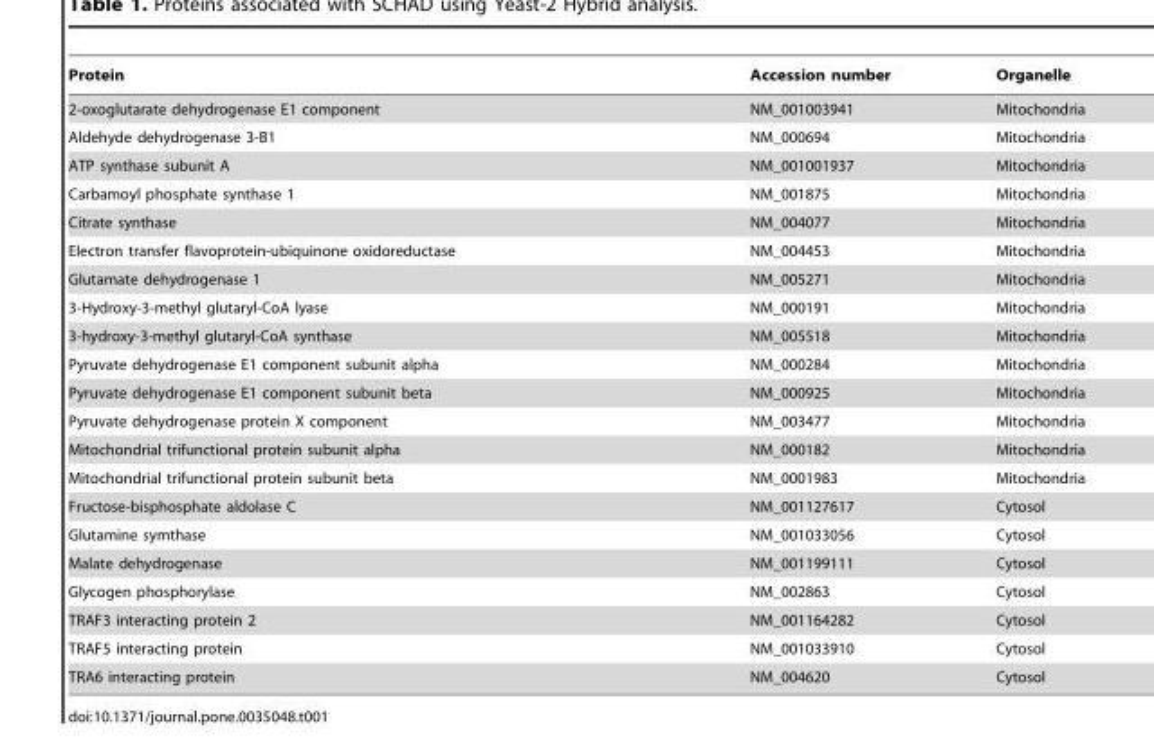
<table><thead><tr><td>Protein</td><td>Accession number</td><td>Organelle</td></tr></thead><tbody><tr><td>2-oxoglutarate dehydrogenase E1 component</td><td>NM_001003941</td><td>Mitochondria</td></tr><tr><td>Aldehyde dehydrogenase 3-B1</td><td>NM_000694</td><td>Mitochondria</td></tr><tr><td>ATP synthase subunit A</td><td>NM_001001937</td><td>Mitochondria</td></tr><tr><td>Carbamoyl phosphate synthase 1</td><td>NM_001875</td><td>Mitochondria</td></tr><tr><td>Citrate synthase</td><td>NM_004077</td><td>Mitochondria</td></tr><tr><td>Electron transfer flavoprotein-ubiquinone oxidoreductase</td><td>NM_004453</td><td>Mitochondria</td></tr><tr><td>Glutamate dehydrogenase 1</td><td>NM_005271</td><td>Mitochondria</td></tr><tr><td>3-Hydroxy-3-methyl glutaryl-CoA lyase</td><td>NM_000191</td><td>Mitochondria</td></tr><tr><td>3-hydroxy-3-methyl glutaryl-CoA synthase</td><td>NM_005518</td><td>Mitochondria</td></tr><tr><td>Pyruvate dehydrogenase E1 component subunit alpha</td><td>NM_000284</td><td>Mitochondria</td></tr><tr><td>Pyruvate dehydrogenase E1 component subunit beta</td><td>NM_000925</td><td>Mitochondria</td></tr><tr><td>Pyruvate dehydrogenase protein X component</td><td>NM_003477</td><td>Mitochondria</td></tr><tr><td>Mitochondrial trifunctional protein subunit alpha</td><td>NM_000182</td><td>Mitochondria</td></tr><tr><td>Mitochondrial trifunctional protein subunit beta</td><td>NM_0001983</td><td>Mitochondria</td></tr><tr><td>Fructose-bisphosphate aldolase C</td><td>NM_001127617</td><td>Cytosol</td></tr><tr><td>Glutamine symthase</td><td>NM_001033056</td><td>Cytosol</td></tr><tr><td>Malate dehydrogenase</td><td>NM_001199111</td><td>Cytosol</td></tr><tr><td>Glycogen phosphorylase</td><td>NM_002863</td><td>Cytosol</td></tr><tr><td>TRAF3 interacting protein 2</td><td>NM_001164282</td><td>Cytosol</td></tr><tr><td>TRAF5 interacting protein</td><td>NM_001033910</td><td>Cytosol</td></tr><tr><td>TRA6 interacting protein</td><td>NM_004620</td><td>Cytosol</td></tr></tbody></table>